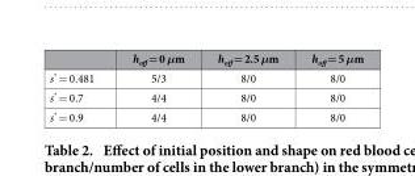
<table><thead><tr><td></td><td>h<sub>off</sub> = 0 μm</td><td>h<sub>off</sub> = 2.5 μm</td><td>h<sub>off</sub> = 5 μm</td></tr></thead><tbody><tr><td>s* = 0.481</td><td>5/3</td><td>8/0</td><td>8/0</td></tr><tr><td>s* = 0.7</td><td>4/4</td><td>8/0</td><td>8/0</td></tr><tr><td>s* = 0.9</td><td>4/4</td><td>8/0</td><td>8/0</td></tr></tbody></table>